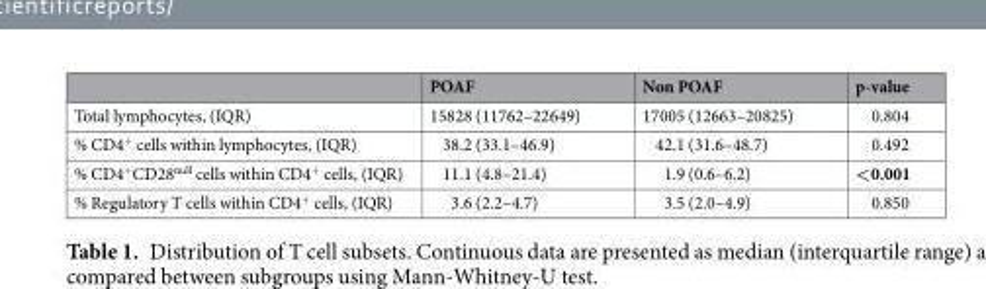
<table><thead><tr><td></td><td>POAF</td><td>Non POAF</td><td>p-value</td></tr></thead><tbody><tr><td>Total lymphocytes, (IQR)</td><td>15828 (11762–22649)</td><td>17005 (12663–20825)</td><td>0.804</td></tr><tr><td>% CD4<sup>+</sup> cells within lymphocytes, (IQR)</td><td>38.2 (33.1–46.9)</td><td>42.1 (31.6–48.7)</td><td>0.492</td></tr><tr><td>% CD4<sup>+</sup>CD28<sup>null</sup> cells within CD4<sup>+</sup> cells, (IQR)</td><td>11.1 (4.8–21.4)</td><td>1.9 (0.6–6.2)</td><td>&lt;0.001</td></tr><tr><td>% Regulatory T cells within CD4<sup>+</sup> cells, (IQR)</td><td>3.6 (2.2–4.7)</td><td>3.5 (2.0–4.9)</td><td>0.850</td></tr></tbody></table>